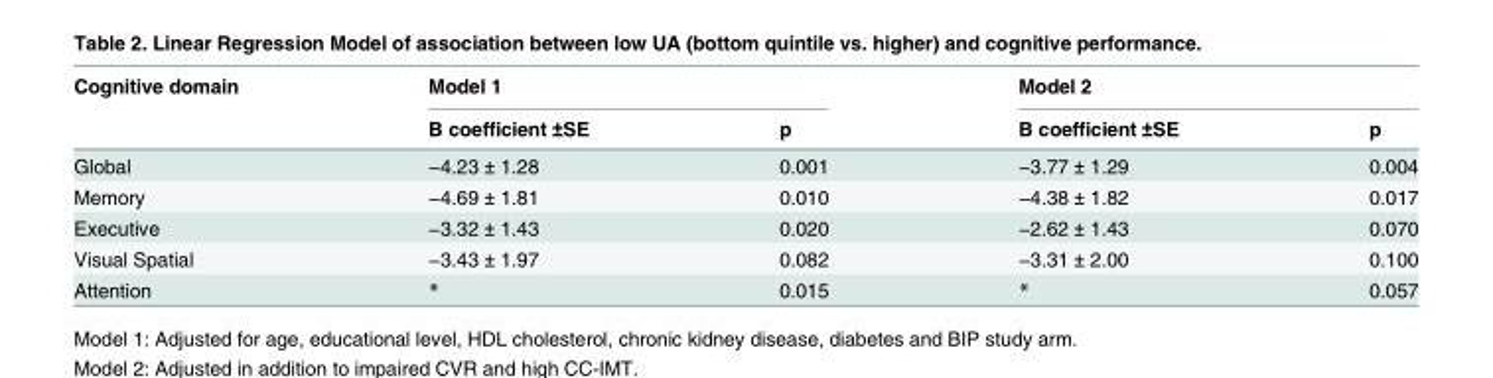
<table><thead><tr><td rowspan="2">Cognitive domain</td><td colspan="2">Model 1</td><td colspan="2">Model 2</td></tr><tr><td>B coefficient ±SE</td><td>p</td><td>B coefficient ±SE</td><td>p</td></tr></thead><tbody><tr><td>Global</td><td>−4.23 ± 1.28</td><td>0.001</td><td>−3.77 ± 1.29</td><td>0.004</td></tr><tr><td>Memory</td><td>−4.69 ± 1.81</td><td>0.010</td><td>−4.38 ± 1.82</td><td>0.017</td></tr><tr><td>Executive</td><td>−3.32 ± 1.43</td><td>0.020</td><td>−2.62 ± 1.43</td><td>0.070</td></tr><tr><td>Visual Spatial</td><td>−3.43 ± 1.97</td><td>0.082</td><td>−3.31 ± 2.00</td><td>0.100</td></tr><tr><td>Attention</td><td>*</td><td>0.015</td><td>*</td><td>0.057</td></tr></tbody></table>